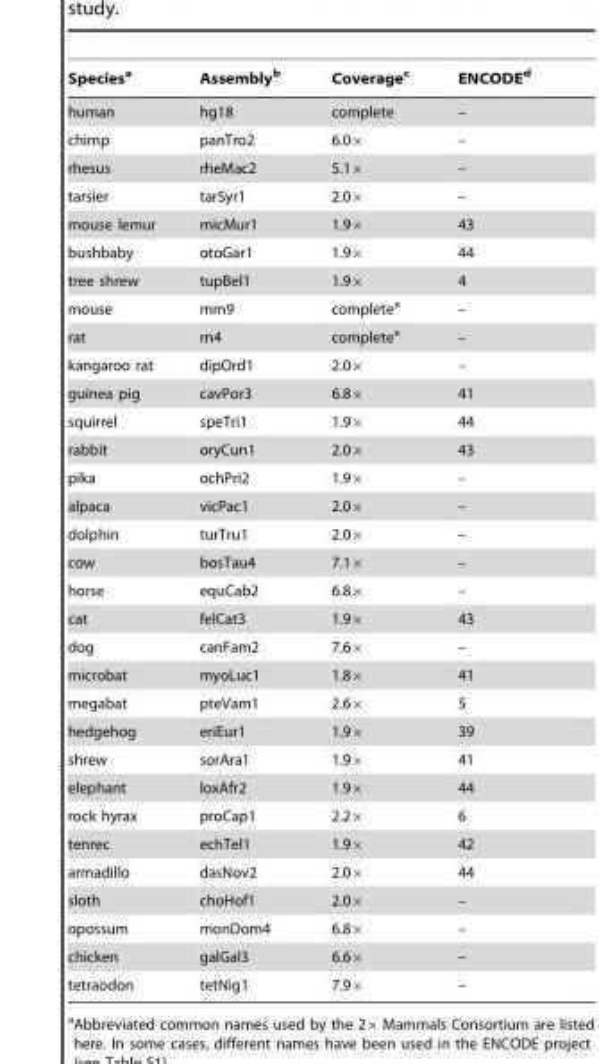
<table><thead><tr><td>Species<sup>a</sup></td><td>Assembly<sup>b</sup></td><td>Coverage<sup>c</sup></td><td>ENCODE<sup>d</sup></td></tr></thead><tbody><tr><td>human</td><td>hg18</td><td>complete</td><td>–</td></tr><tr><td>chimp</td><td>panTro2</td><td>6.0×</td><td>–</td></tr><tr><td>rhesus</td><td>rheMac2</td><td>5.1×</td><td>–</td></tr><tr><td>tarsier</td><td>tarSyr1</td><td>2.0×</td><td>–</td></tr><tr><td>mouse lemur</td><td>micMur1</td><td>1.9×</td><td>43</td></tr><tr><td>bushbaby</td><td>otoGar1</td><td>1.9×</td><td>44</td></tr><tr><td>tree shrew</td><td>tupBel1</td><td>1.9×</td><td>4</td></tr><tr><td>mouse</td><td>mm9</td><td>complete<sup>e</sup></td><td>–</td></tr><tr><td>rat</td><td>rn4</td><td>complete<sup>e</sup></td><td>–</td></tr><tr><td>kangaroo rat</td><td>dipOrd1</td><td>2.0×</td><td>–</td></tr><tr><td>guinea pig</td><td>cavPor3</td><td>6.8×</td><td>41</td></tr><tr><td>squirrel</td><td>speTri1</td><td>1.9×</td><td>44</td></tr><tr><td>rabbit</td><td>oryCun1</td><td>2.0×</td><td>43</td></tr><tr><td>pika</td><td>ochPri2</td><td>1.9×</td><td>–</td></tr><tr><td>alpaca</td><td>vicPac1</td><td>2.0×</td><td>–</td></tr><tr><td>dolphin</td><td>turTru1</td><td>2.0×</td><td>–</td></tr><tr><td>cow</td><td>bosTau4</td><td>7.1×</td><td>–</td></tr><tr><td>horse</td><td>equCab2</td><td>6.8×</td><td>–</td></tr><tr><td>cat</td><td>felCat3</td><td>1.9×</td><td>43</td></tr><tr><td>dog</td><td>canFam2</td><td>7.6×</td><td>–</td></tr><tr><td>microbat</td><td>myoLuc1</td><td>1.8×</td><td>41</td></tr><tr><td>megabat</td><td>pteVam1</td><td>2.6×</td><td>5</td></tr><tr><td>hedgehog</td><td>eriEur1</td><td>1.9×</td><td>39</td></tr><tr><td>shrew</td><td>sorAra1</td><td>1.9×</td><td>41</td></tr><tr><td>elephant</td><td>loxAfr2</td><td>1.9×</td><td>44</td></tr><tr><td>rock hyrax</td><td>proCap1</td><td>2.2×</td><td>6</td></tr><tr><td>tenrec</td><td>echTel1</td><td>1.9×</td><td>42</td></tr><tr><td>armadillo</td><td>dasNov2</td><td>2.0×</td><td>44</td></tr><tr><td>sloth</td><td>choHof1</td><td>2.0×</td><td>–</td></tr><tr><td>opossum</td><td>monDom4</td><td>6.8×</td><td>–</td></tr><tr><td>chicken</td><td>galGal3</td><td>6.6×</td><td>–</td></tr><tr><td>tetraodon</td><td>tetNig1</td><td>7.9×</td><td>–</td></tr></tbody></table>